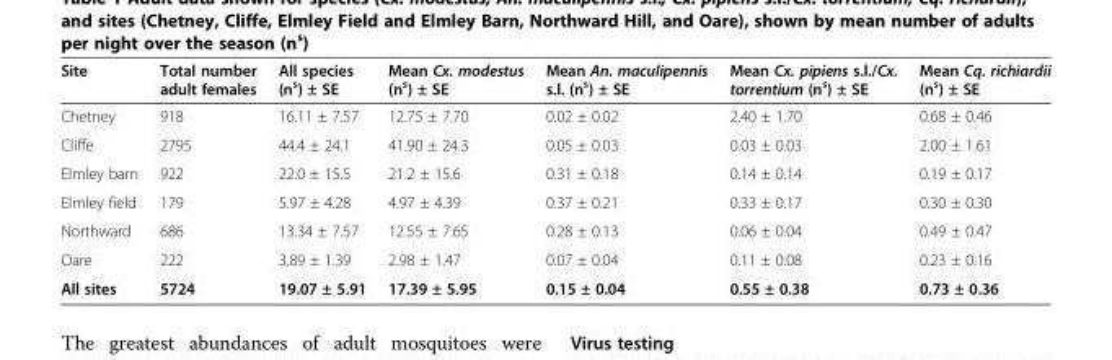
<table><thead><tr><td>Site</td><td>Total number adult females</td><td>All species (n<sup>s</sup>) ± SE</td><td>Mean Cx. modestus (n<sup>s</sup>) ± SE</td><td>Mean An. maculipennis s.l. (n<sup>s</sup>) ± SE</td><td>Mean Cx. pipiens s.l./Cx. torrentium (n<sup>s</sup>) ± SE</td><td>Mean Cq. richiardii (n<sup>s</sup>) ± SE</td></tr></thead><tbody><tr><td>Chetney</td><td>918</td><td>16.11 ± 7.57</td><td>12.75 ± 7.70</td><td>0.02 ± 0.02</td><td>2.40 ± 1.70</td><td>0.68 ± 0.46</td></tr><tr><td>Cliffe</td><td>2795</td><td>44.4 ± 24.1</td><td>41.90 ± 24.3</td><td>0.05 ± 0.03</td><td>0.03 ± 0.03</td><td>2.00 ± 1.61</td></tr><tr><td>Elmley barn</td><td>922</td><td>22.0 ± 15.5</td><td>21.2 ± 15.6</td><td>0.31 ± 0.18</td><td>0.14 ± 0.14</td><td>0.19 ± 0.17</td></tr><tr><td>Elmley field</td><td>179</td><td>5.97 ± 4.28</td><td>4.97 ± 4.39</td><td>0.37 ± 0.21</td><td>0.33 ± 0.17</td><td>0.30 ± 0.30</td></tr><tr><td>Northward</td><td>686</td><td>13.34 ± 7.57</td><td>12.55 ± 7.65</td><td>0.28 ± 0.13</td><td>0.06 ± 0.04</td><td>0.49 ± 0.47</td></tr><tr><td>Oare</td><td>222</td><td>3.89 ± 1.39</td><td>2.98 ± 1.47</td><td>0.07 ± 0.04</td><td>0.11 ± 0.08</td><td>0.23 ± 0.16</td></tr><tr><td>All sites</td><td>5724</td><td>19.07 ± 5.91</td><td>17.39 ± 5.95</td><td>0.15 ± 0.04</td><td>0.55 ± 0.38</td><td>0.73 ± 0.36</td></tr></tbody></table>